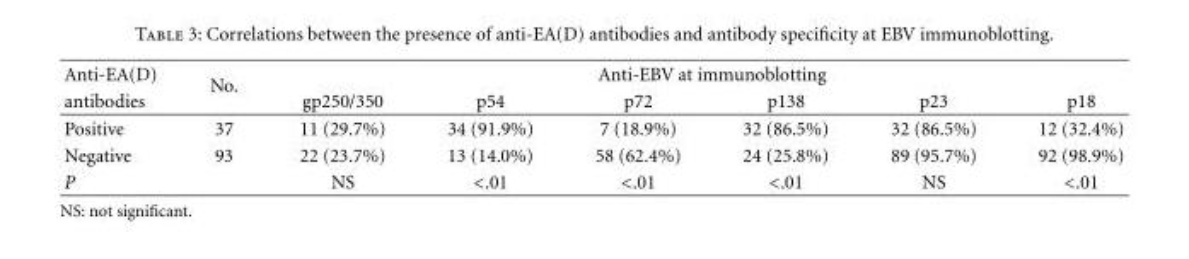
<table><thead><tr><td rowspan="2">Anti-EA(D) antibodies</td><td rowspan="2">No.</td><td colspan="6">Anti-EBV at immunoblotting</td></tr><tr><td>gp250/350</td><td>p54</td><td>p72</td><td>p138</td><td>p23</td><td>p18</td></tr></thead><tbody><tr><td>Positive</td><td>37</td><td>11 (29.7%)</td><td>34 (91.9%)</td><td>7 (18.9%)</td><td>32 (86.5%)</td><td>32 (86.5%)</td><td>12 (32.4%)</td></tr><tr><td>Negative</td><td>93</td><td>22 (23.7%)</td><td>13 (14.0%)</td><td>58 (62.4%)</td><td>24 (25.8%)</td><td>89 (95.7%)</td><td>92 (98.9%)</td></tr><tr><td>P</td><td></td><td>NS</td><td>&lt;.01</td><td>&lt;.01</td><td>&lt;.01</td><td>NS</td><td>&lt;.01</td></tr></tbody></table>